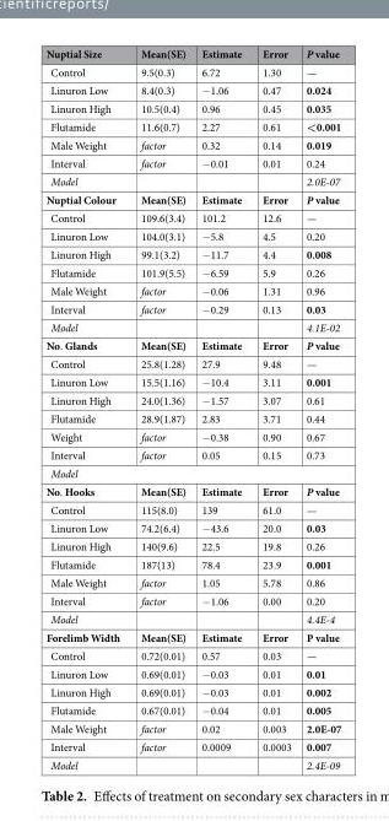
<table><thead><tr><td>Nuptial Size</td><td>Mean(SE)</td><td>Estimate</td><td>Error</td><td>P value</td></tr></thead><tbody><tr><td>Control</td><td>9.5(0.3)</td><td>6.72</td><td>1.30</td><td>—</td></tr><tr><td>Linuron Low</td><td>8.4(0.3)</td><td>−1.06</td><td>0.47</td><td>0.024</td></tr><tr><td>Linuron High</td><td>10.5(0.4)</td><td>0.96</td><td>0.45</td><td>0.035</td></tr><tr><td>Flutamide</td><td>11.6(0.7)</td><td>2.27</td><td>0.61</td><td>&lt;0.001</td></tr><tr><td>Male Weight</td><td>factor</td><td>0.32</td><td>0.14</td><td>0.019</td></tr><tr><td>Interval</td><td>factor</td><td>−0.01</td><td>0.01</td><td>0.24</td></tr><tr><td>Model</td><td></td><td></td><td></td><td>2.0E-07</td></tr><tr><td>Nuptial Colour</td><td>Mean(SE)</td><td>Estimate</td><td>Error</td><td>P value</td></tr><tr><td>Control</td><td>109.6(3.4)</td><td>101.2</td><td>12.6</td><td>—</td></tr><tr><td>Linuron Low</td><td>104.0(3.1)</td><td>−5.8</td><td>4.5</td><td>0.20</td></tr><tr><td>Linuron High</td><td>99.1(3.2)</td><td>−11.7</td><td>4.4</td><td>0.008</td></tr><tr><td>Flutamide</td><td>101.9(5.5)</td><td>−6.59</td><td>5.9</td><td>0.26</td></tr><tr><td>Male Weight</td><td>factor</td><td>−0.06</td><td>1.31</td><td>0.96</td></tr><tr><td>Interval</td><td>factor</td><td>−0.29</td><td>0.13</td><td>0.03</td></tr><tr><td>Model</td><td></td><td></td><td></td><td>4.1E-02</td></tr><tr><td>No. Glands</td><td>Mean(SE)</td><td>Estimate</td><td>Error</td><td>P value</td></tr><tr><td>Control</td><td>25.8(1.28)</td><td>27.9</td><td>9.48</td><td>—</td></tr><tr><td>Linuron Low</td><td>15.5(1.16)</td><td>−10.4</td><td>3.11</td><td>0.001</td></tr><tr><td>Linuron High</td><td>24.0(1.36)</td><td>−1.57</td><td>3.07</td><td>0.61</td></tr><tr><td>Flutamide</td><td>28.9(1.87)</td><td>2.83</td><td>3.71</td><td>0.44</td></tr><tr><td>Weight</td><td>factor</td><td>−0.38</td><td>0.90</td><td>0.67</td></tr><tr><td>Interval</td><td>factor</td><td>0.05</td><td>0.15</td><td>0.73</td></tr><tr><td colspan="5">Model</td></tr><tr><td>No. Hooks</td><td>Mean(SE)</td><td>Estimate</td><td>Error</td><td>P value</td></tr><tr><td>Control</td><td>115(8.0)</td><td>139</td><td>61.0</td><td>—</td></tr><tr><td>Linuron Low</td><td>74.2(6.4)</td><td>−43.6</td><td>20.0</td><td>0.03</td></tr><tr><td>Linuron High</td><td>140(9.6)</td><td>22.5</td><td>19.8</td><td>0.26</td></tr><tr><td>Flutamide</td><td>187(13)</td><td>78.4</td><td>23.9</td><td>0.001</td></tr><tr><td>Male Weight</td><td>factor</td><td>1.05</td><td>5.78</td><td>0.86</td></tr><tr><td>Interval</td><td>factor</td><td>−1.06</td><td>0.00</td><td>0.20</td></tr><tr><td>Model</td><td></td><td></td><td></td><td>4.4E-4</td></tr><tr><td>Forelimb Width</td><td>Mean(SE)</td><td>Estimate</td><td>Error</td><td>P value</td></tr><tr><td>Control</td><td>0.72(0.01)</td><td>0.57</td><td>0.03</td><td>—</td></tr><tr><td>Linuron Low</td><td>0.69(0.01)</td><td>−0.03</td><td>0.01</td><td>0.01</td></tr><tr><td>Linuron High</td><td>0.69(0.01)</td><td>−0.03</td><td>0.01</td><td>0.002</td></tr><tr><td>Flutamide</td><td>0.67(0.01)</td><td>−0.04</td><td>0.01</td><td>0.005</td></tr><tr><td>Male Weight</td><td>factor</td><td>0.02</td><td>0.003</td><td>2.0E-07</td></tr><tr><td>Interval</td><td>factor</td><td>0.0009</td><td>0.0003</td><td>0.007</td></tr><tr><td>Model</td><td></td><td></td><td></td><td>2.4E-09</td></tr></tbody></table>